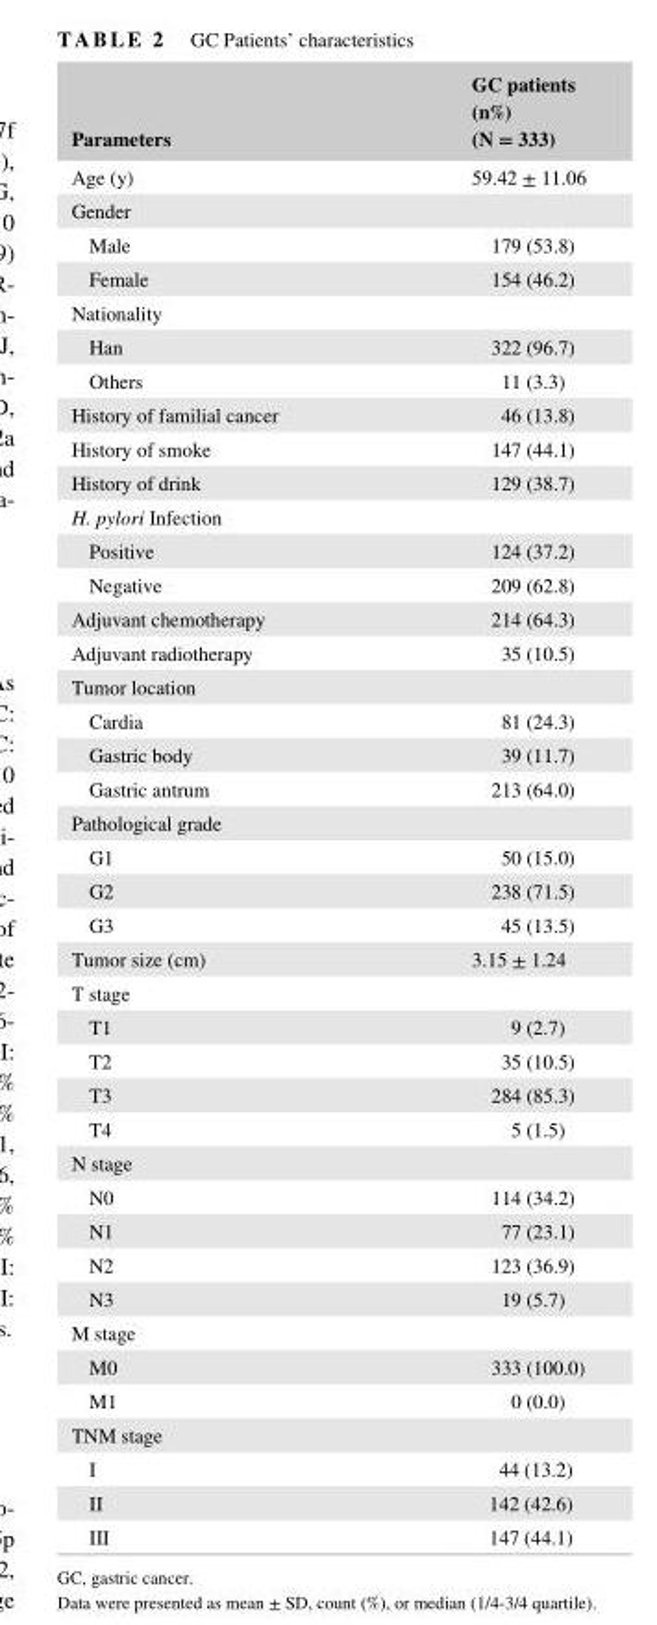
<table><thead><tr><td>Parameters</td><td>GC patients (n%) (N = 333)</td></tr></thead><tbody><tr><td>Age (y)</td><td>59.42 ± 11.06</td></tr><tr><td colspan="2">Gender</td></tr><tr><td>Male</td><td>179 (53.8)</td></tr><tr><td>Female</td><td>154 (46.2)</td></tr><tr><td colspan="2">Nationality</td></tr><tr><td>Han</td><td>322 (96.7)</td></tr><tr><td>Others</td><td>11 (3.3)</td></tr><tr><td>History of familial cancer</td><td>46 (13.8)</td></tr><tr><td>History of smoke</td><td>147 (44.1)</td></tr><tr><td>History of drink</td><td>129 (38.7)</td></tr><tr><td colspan="2">H. pylori Infection</td></tr><tr><td>Positive</td><td>124 (37.2)</td></tr><tr><td>Negative</td><td>209 (62.8)</td></tr><tr><td>Adjuvant chemotherapy</td><td>214 (64.3)</td></tr><tr><td>Adjuvant radiotherapy</td><td>35 (10.5)</td></tr><tr><td colspan="2">Tumor location</td></tr><tr><td>Cardia</td><td>81 (24.3)</td></tr><tr><td>Gastric body</td><td>39 (11.7)</td></tr><tr><td>Gastric antrum</td><td>213 (64.0)</td></tr><tr><td colspan="2">Pathological grade</td></tr><tr><td>G1</td><td>50 (15.0)</td></tr><tr><td>G2</td><td>238 (71.5)</td></tr><tr><td>G3</td><td>45 (13.5)</td></tr><tr><td>Tumor size (cm)</td><td>3.15 ± 1.24</td></tr><tr><td colspan="2">T stage</td></tr><tr><td>T1</td><td>9 (2.7)</td></tr><tr><td>T2</td><td>35 (10.5)</td></tr><tr><td>T3</td><td>284 (85.3)</td></tr><tr><td>T4</td><td>5 (1.5)</td></tr><tr><td colspan="2">N stage</td></tr><tr><td>N0</td><td>114 (34.2)</td></tr><tr><td>N1</td><td>77 (23.1)</td></tr><tr><td>N2</td><td>123 (36.9)</td></tr><tr><td>N3</td><td>19 (5.7)</td></tr><tr><td colspan="2">M stage</td></tr><tr><td>M0</td><td>333 (100.0)</td></tr><tr><td>M1</td><td>0 (0.0)</td></tr><tr><td colspan="2">TNM stage</td></tr><tr><td>I</td><td>44 (13.2)</td></tr><tr><td>II</td><td>142 (42.6)</td></tr><tr><td>III</td><td>147 (44.1)</td></tr></tbody></table>